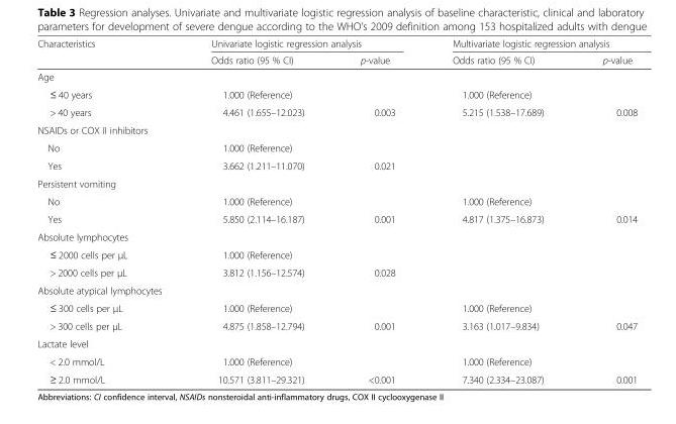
<table><thead><tr><td rowspan="2">Characteristics</td><td colspan="2">Univariate logistic regression analysis</td><td colspan="2">Multivariate logistic regression analysis</td></tr><tr><td>Odds ratio (95 % CI)</td><td>p-value</td><td>Odds ratio (95 % CI)</td><td>p-value</td></tr></thead><tbody><tr><td colspan="5">Age</td></tr><tr><td>≤ 40 years</td><td>1.000 (Reference)</td><td></td><td>1.000 (Reference)</td><td></td></tr><tr><td>&gt; 40 years</td><td>4.461 (1.655–12.023)</td><td>0.003</td><td>5.215 (1.538–17.689)</td><td>0.008</td></tr><tr><td colspan="5">NSAIDs or COX II inhibitors</td></tr><tr><td>No</td><td>1.000 (Reference)</td><td></td><td></td><td></td></tr><tr><td>Yes</td><td>3.662 (1.211–11.070)</td><td>0.021</td><td></td><td></td></tr><tr><td colspan="5">Persistent vomiting</td></tr><tr><td>No</td><td>1.000 (Reference)</td><td></td><td>1.000 (Reference)</td><td></td></tr><tr><td>Yes</td><td>5.850 (2.114–16.187)</td><td>0.001</td><td>4.817 (1.375–16.873)</td><td>0.014</td></tr><tr><td colspan="5">Absolute lymphocytes</td></tr><tr><td>≤ 2000 cells per μL</td><td>1.000 (Reference)</td><td></td><td></td><td></td></tr><tr><td>&gt; 2000 cells per μL</td><td>3.812 (1.156–12.574)</td><td>0.028</td><td></td><td></td></tr><tr><td colspan="5">Absolute atypical lymphocytes</td></tr><tr><td>≤ 300 cells per μL</td><td>1.000 (Reference)</td><td></td><td>1.000 (Reference)</td><td></td></tr><tr><td>&gt; 300 cells per μL</td><td>4.875 (1.858–12.794)</td><td>0.001</td><td>3.163 (1.017–9.834)</td><td>0.047</td></tr><tr><td colspan="5">Lactate level</td></tr><tr><td>&lt; 2.0 mmol/L</td><td>1.000 (Reference)</td><td></td><td>1.000 (Reference)</td><td></td></tr><tr><td>≥ 2.0 mmol/L</td><td>10.571 (3.811–29.321)</td><td>&lt;0.001</td><td>7.340 (2.334–23.087)</td><td>0.001</td></tr></tbody></table>